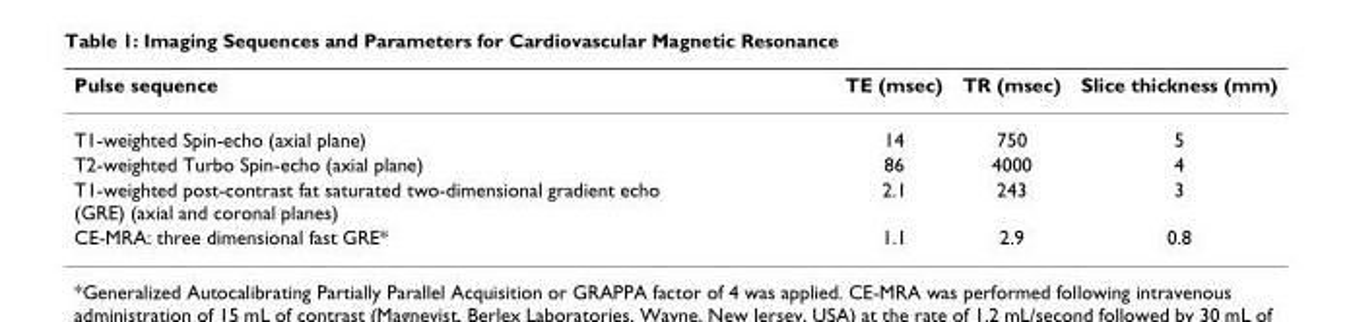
<table><thead><tr><td>Pulse sequence</td><td>TE (msec)</td><td>TR (msec)</td><td>Slice thickness (mm)</td></tr></thead><tbody><tr><td>T1-weighted Spin-echo (axial plane)</td><td>14</td><td>750</td><td>5</td></tr><tr><td>T2-weighted Turbo Spin-echo (axial plane)</td><td>86</td><td>4000</td><td>4</td></tr><tr><td>T1-weighted post-contrast fat saturated two-dimensional gradient echo (GRE) (axial and coronal planes)</td><td>2.1</td><td>243</td><td>3</td></tr><tr><td>CE-MRA: three dimensional fast GRE*</td><td>1.1</td><td>2.9</td><td>0.8</td></tr></tbody></table>